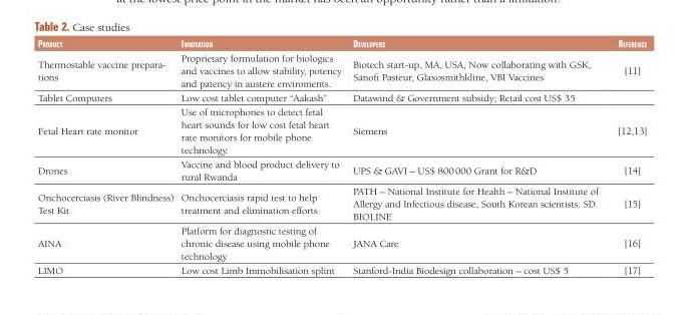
<table><thead><tr><td>proDuct</td><td>innovation</td><td>Developers</td><td>reference</td></tr></thead><tbody><tr><td>Thermostable vaccine prepara- tions</td><td>Proprietary formulation for biologics and vaccines to allow stability, potency and patency in austere enviroments.</td><td>Biotech start-up, MA, USA, Now collaborating with GSK, Sanofi Pasteur, Glaxosmithkline, VBI Vaccines</td><td>[11]</td></tr><tr><td>Tablet Computers</td><td>Low cost tablet computer “Aakash”</td><td>Datawind &amp; Government subsidy; Retail cost US$ 35</td><td></td></tr><tr><td>Fetal Heart rate monitor</td><td>Use of microphones to detect fetal heart sounds for low cost fetal heart rate monitors for mobile phone technology.</td><td>Siemens</td><td>[12,13]</td></tr><tr><td>Drones</td><td>Vaccine and blood product delivery to rural Rwanda</td><td>UPS &amp; GAVI – US$ 800 000 Grant for R&amp;D</td><td>[14]</td></tr><tr><td>Onchocerciasis (River Blindness) Test Kit</td><td>Onchocerciasis rapid test to help treatment and elimination efforts</td><td>PATH – National Institute for Health – National Institute of Allergy and Infectious disease, South Korean scientists. SD. BIOLINE</td><td>[15]</td></tr><tr><td>AINA</td><td>Platform for diagnostic testing of chronic disease using mobile phone technology</td><td>JANA Care</td><td>[16]</td></tr><tr><td>LIMO</td><td>Low cost Limb Immobilisation splint</td><td>Stanford-India Biodesign collaboration – cost US$ 5</td><td>[17]</td></tr></tbody></table>